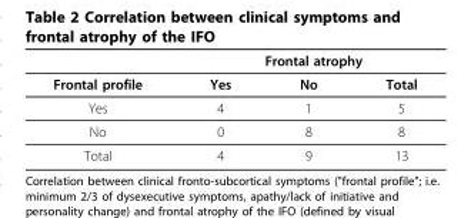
<table><thead><tr><td rowspan="2">Frontal profile</td><td colspan="3">Frontal atrophy</td></tr><tr><td>Yes</td><td>No</td><td>Total</td></tr></thead><tbody><tr><td>Yes</td><td>4</td><td>1</td><td>5</td></tr><tr><td>No</td><td>0</td><td>8</td><td>8</td></tr><tr><td>Total</td><td>4</td><td>9</td><td>13</td></tr></tbody></table>